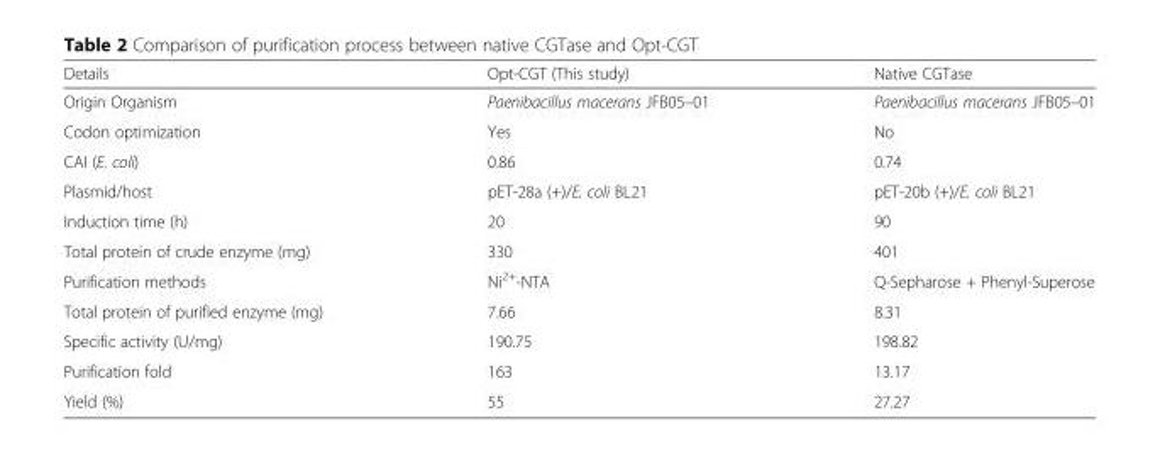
<table><thead><tr><td>Details</td><td>Opt-CGT (This study)</td><td>Native CGTase</td></tr></thead><tbody><tr><td>Origin Organism</td><td>Paenibacillus macerans JFB05–01</td><td>Paenibacillus macerans JFB05–01</td></tr><tr><td>Codon optimization</td><td>Yes</td><td>No</td></tr><tr><td>CAI (E. coli)</td><td>0.86</td><td>0.74</td></tr><tr><td>Plasmid/host</td><td>pET-28a (+)/E. coli BL21</td><td>pET-20b (+)/E. coli BL21</td></tr><tr><td>Induction time (h)</td><td>20</td><td>90</td></tr><tr><td>Total protein of crude enzyme (mg)</td><td>330</td><td>401</td></tr><tr><td>Purification methods</td><td>Ni<sup>2+</sup>-NTA</td><td>Q-Sepharose + Phenyl-Superose</td></tr><tr><td>Total protein of purified enzyme (mg)</td><td>7.66</td><td>8.31</td></tr><tr><td>Specific activity (U/mg)</td><td>190.75</td><td>198.82</td></tr><tr><td>Purification fold</td><td>163</td><td>13.17</td></tr><tr><td>Yield (%)</td><td>55</td><td>27.27</td></tr></tbody></table>